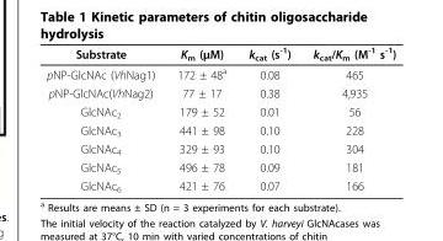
<table><thead><tr><td>Substrate</td><td>K<sub>m</sub> (μM)</td><td>k<sub>cat</sub> (s<sup>-1</sup>)</td><td>k<sub>cat</sub>/K<sub>m</sub> (M<sup>-1</sup> s<sup>-1</sup>)</td></tr></thead><tbody><tr><td>pNP-GlcNAc (VhNag1)</td><td>172 ± 48<sup>a</sup></td><td>0.08</td><td>465</td></tr><tr><td>pNP-GlcNAc(VhNag2)</td><td>77 ± 17</td><td>0.38</td><td>4,935</td></tr><tr><td>GlcNAc<sub>2</sub></td><td>179 ± 52</td><td>0.01</td><td>56</td></tr><tr><td>GlcNAc<sub>3</sub></td><td>441 ± 98</td><td>0.10</td><td>228</td></tr><tr><td>GlcNAc<sub>4</sub></td><td>329 ± 93</td><td>0.10</td><td>304</td></tr><tr><td>GlcNAc<sub>5</sub></td><td>496 ± 78</td><td>0.09</td><td>181</td></tr><tr><td>GlcNAc<sub>6</sub></td><td>421 ± 76</td><td>0.07</td><td>166</td></tr></tbody></table>